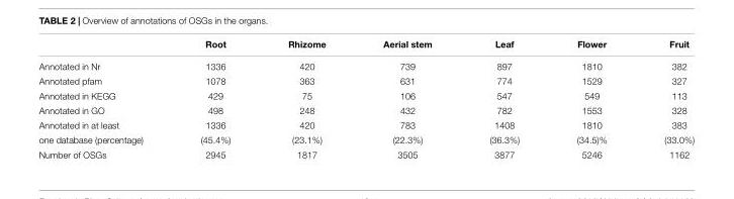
<table><thead><tr><td></td><td>Root</td><td>Rhizome</td><td>Aerial stem</td><td>Leaf</td><td>Flower</td><td>Fruit</td></tr></thead><tbody><tr><td>Annotated in Nr</td><td>1336</td><td>420</td><td>739</td><td>897</td><td>1810</td><td>382</td></tr><tr><td>Annotated pfam</td><td>1078</td><td>363</td><td>631</td><td>774</td><td>1529</td><td>327</td></tr><tr><td>Annotated in KEGG</td><td>429</td><td>75</td><td>106</td><td>547</td><td>549</td><td>113</td></tr><tr><td>Annotated in GO</td><td>498</td><td>248</td><td>432</td><td>782</td><td>1553</td><td>328</td></tr><tr><td>Annotated in at least</td><td>1336</td><td>420</td><td>783</td><td>1408</td><td>1810</td><td>383</td></tr><tr><td>one database (percentage)</td><td>(45.4%)</td><td>(23.1%)</td><td>(22.3%)</td><td>(36.3%)</td><td>(34.5)%</td><td>(33.0%)</td></tr><tr><td>Number of OSGs</td><td>2945</td><td>1817</td><td>3505</td><td>3877</td><td>5246</td><td>1162</td></tr></tbody></table>